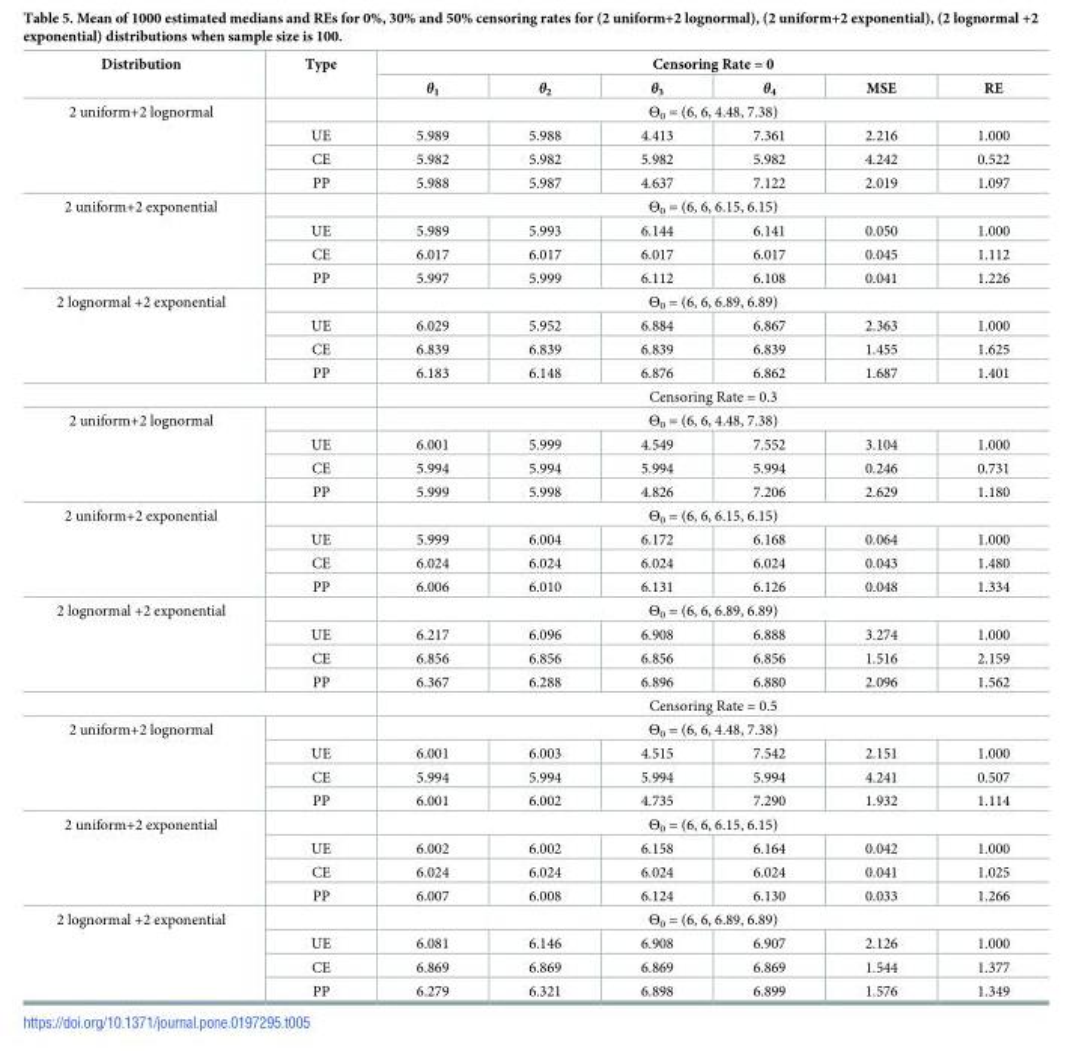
<table><thead><tr><td rowspan="2">Distribution</td><td rowspan="2">Type</td><td colspan="6">Censoring Rate = 0</td></tr><tr><td>θ<sub>1</sub></td><td>θ<sub>2</sub></td><td>θ<sub>3</sub></td><td>θ<sub>4</sub></td><td>MSE</td><td>RE</td></tr></thead><tbody><tr><td rowspan="4">2 uniform+2 lognormal</td><td></td><td colspan="6">Θ<sub>0</sub> = (6, 6, 4.48, 7.38)</td></tr><tr><td>UE</td><td>5.989</td><td>5.988</td><td>4.413</td><td>7.361</td><td>2.216</td><td>1.000</td></tr><tr><td>CE</td><td>5.982</td><td>5.982</td><td>5.982</td><td>5.982</td><td>4.242</td><td>0.522</td></tr><tr><td>PP</td><td>5.988</td><td>5.987</td><td>4.637</td><td>7.122</td><td>2.019</td><td>1.097</td></tr><tr><td rowspan="4">2 uniform+2 exponential</td><td></td><td colspan="6">Θ<sub>0</sub> = (6, 6, 6.15, 6.15)</td></tr><tr><td>UE</td><td>5.989</td><td>5.993</td><td>6.144</td><td>6.141</td><td>0.050</td><td>1.000</td></tr><tr><td>CE</td><td>6.017</td><td>6.017</td><td>6.017</td><td>6.017</td><td>0.045</td><td>1.112</td></tr><tr><td>PP</td><td>5.997</td><td>5.999</td><td>6.112</td><td>6.108</td><td>0.041</td><td>1.226</td></tr><tr><td rowspan="4">2 lognormal +2 exponential</td><td></td><td colspan="6">Θ<sub>0</sub> = (6, 6, 6.89, 6.89)</td></tr><tr><td>UE</td><td>6.029</td><td>5.952</td><td>6.884</td><td>6.867</td><td>2.363</td><td>1.000</td></tr><tr><td>CE</td><td>6.839</td><td>6.839</td><td>6.839</td><td>6.839</td><td>1.455</td><td>1.625</td></tr><tr><td>PP</td><td>6.183</td><td>6.148</td><td>6.876</td><td>6.862</td><td>1.687</td><td>1.401</td></tr><tr><td colspan="2"></td><td colspan="6">Censoring Rate = 0.3</td></tr><tr><td rowspan="4">2 uniform+2 lognormal</td><td></td><td colspan="6">Θ<sub>0</sub> = (6, 6, 4.48, 7.38)</td></tr><tr><td>UE</td><td>6.001</td><td>5.999</td><td>4.549</td><td>7.552</td><td>3.104</td><td>1.000</td></tr><tr><td>CE</td><td>5.994</td><td>5.994</td><td>5.994</td><td>5.994</td><td>0.246</td><td>0.731</td></tr><tr><td>PP</td><td>5.999</td><td>5.998</td><td>4.826</td><td>7.206</td><td>2.629</td><td>1.180</td></tr><tr><td rowspan="4">2 uniform+2 exponential</td><td></td><td colspan="6">Θ<sub>0</sub> = (6, 6, 6.15, 6.15)</td></tr><tr><td>UE</td><td>5.999</td><td>6.004</td><td>6.172</td><td>6.168</td><td>0.064</td><td>1.000</td></tr><tr><td>CE</td><td>6.024</td><td>6.024</td><td>6.024</td><td>6.024</td><td>0.043</td><td>1.480</td></tr><tr><td>PP</td><td>6.006</td><td>6.010</td><td>6.131</td><td>6.126</td><td>0.048</td><td>1.334</td></tr><tr><td rowspan="4">2 lognormal +2 exponential</td><td></td><td colspan="6">Θ<sub>0</sub> = (6, 6, 6.89, 6.89)</td></tr><tr><td>UE</td><td>6.217</td><td>6.096</td><td>6.908</td><td>6.888</td><td>3.274</td><td>1.000</td></tr><tr><td>CE</td><td>6.856</td><td>6.856</td><td>6.856</td><td>6.856</td><td>1.516</td><td>2.159</td></tr><tr><td>PP</td><td>6.367</td><td>6.288</td><td>6.896</td><td>6.880</td><td>2.096</td><td>1.562</td></tr><tr><td colspan="2"></td><td colspan="6">Censoring Rate = 0.5</td></tr><tr><td rowspan="4">2 uniform+2 lognormal</td><td></td><td colspan="6">Θ<sub>0</sub> = (6, 6, 4.48, 7.38)</td></tr><tr><td>UE</td><td>6.001</td><td>6.003</td><td>4.515</td><td>7.542</td><td>2.151</td><td>1.000</td></tr><tr><td>CE</td><td>5.994</td><td>5.994</td><td>5.994</td><td>5.994</td><td>4.241</td><td>0.507</td></tr><tr><td>PP</td><td>6.001</td><td>6.002</td><td>4.735</td><td>7.290</td><td>1.932</td><td>1.114</td></tr><tr><td rowspan="4">2 uniform+2 exponential</td><td></td><td colspan="6">Θ<sub>0</sub> = (6, 6, 6.15, 6.15)</td></tr><tr><td>UE</td><td>6.002</td><td>6.002</td><td>6.158</td><td>6.164</td><td>0.042</td><td>1.000</td></tr><tr><td>CE</td><td>6.024</td><td>6.024</td><td>6.024</td><td>6.024</td><td>0.041</td><td>1.025</td></tr><tr><td>PP</td><td>6.007</td><td>6.008</td><td>6.124</td><td>6.130</td><td>0.033</td><td>1.266</td></tr><tr><td rowspan="4">2 lognormal +2 exponential</td><td></td><td colspan="6">Θ<sub>0</sub> = (6, 6, 6.89, 6.89)</td></tr><tr><td>UE</td><td>6.081</td><td>6.146</td><td>6.908</td><td>6.907</td><td>2.126</td><td>1.000</td></tr><tr><td>CE</td><td>6.869</td><td>6.869</td><td>6.869</td><td>6.869</td><td>1.544</td><td>1.377</td></tr><tr><td>PP</td><td>6.279</td><td>6.321</td><td>6.898</td><td>6.899</td><td>1.576</td><td>1.349</td></tr></tbody></table>